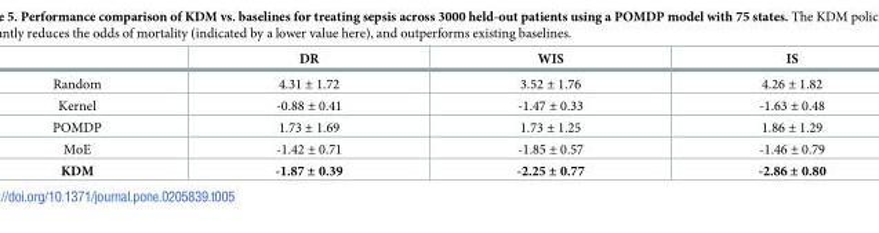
<table><thead><tr><td></td><td>DR</td><td>WIS</td><td>IS</td></tr></thead><tbody><tr><td>Random</td><td>4.31 ± 1.72</td><td>3.52 ± 1.76</td><td>4.26 ± 1.82</td></tr><tr><td>Kernel</td><td>-0.88 ± 0.41</td><td>-1.47 ± 0.33</td><td>-1.63 ± 0.48</td></tr><tr><td>POMDP</td><td>1.73 ± 1.69</td><td>1.73 ± 1.25</td><td>1.86 ± 1.29</td></tr><tr><td>MoE</td><td>-1.42 ± 0.71</td><td>-1.85 ± 0.57</td><td>-1.46 ± 0.79</td></tr><tr><td>KDM</td><td>-1.87 ± 0.39</td><td>-2.25 ± 0.77</td><td>-2.86 ± 0.80</td></tr></tbody></table>